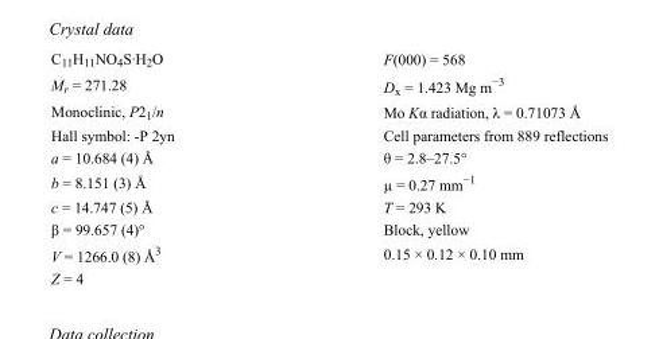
<table><tbody><tr><td>C<sub>11</sub>H<sub>11</sub>NO<sub>4</sub>S·H<sub>2</sub>O</td><td>F(000) = 568</td></tr><tr><td>M<sub>r</sub> = 271.28</td><td>D<sub>x</sub> = 1.423 Mg m<sup>−3</sup></td></tr><tr><td>Monoclinic, P2<sub>1</sub>/n</td><td>Mo Kα radiation, λ = 0.71073 Å</td></tr><tr><td>Hall symbol: -P 2yn</td><td>Cell parameters from 889 reflections</td></tr><tr><td>a = 10.684 (4) Å</td><td>θ = 2.8–27.5°</td></tr><tr><td>b = 8.151 (3) Å</td><td>µ = 0.27 mm<sup>−1</sup></td></tr><tr><td>c = 14.747 (5) Å</td><td>T = 293 K</td></tr><tr><td>β = 99.657 (4)°</td><td>Block, yellow</td></tr><tr><td>V = 1266.0 (8) Å<sup>3</sup></td><td>0.15 × 0.12 × 0.10 mm</td></tr><tr><td>Z = 4</td><td></td></tr></tbody></table>